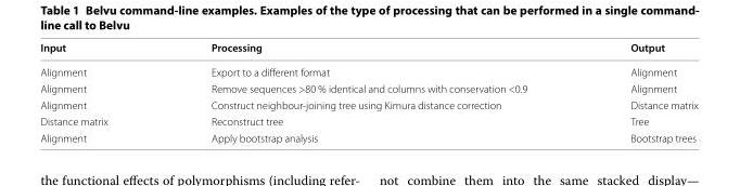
<table><thead><tr><td>Input</td><td>Processing</td><td>Output</td></tr></thead><tbody><tr><td>Alignment</td><td>Export to a different format</td><td>Alignment</td></tr><tr><td>Alignment</td><td>Remove sequences &gt;80 % identical and columns with conservation &lt;0.9</td><td>Alignment</td></tr><tr><td>Alignment</td><td>Construct neighbour-joining tree using Kimura distance correction</td><td>Distance matrix</td></tr><tr><td>Distance matrix</td><td>Reconstruct tree</td><td>Tree</td></tr><tr><td>Alignment</td><td>Apply bootstrap analysis</td><td>Bootstrap trees</td></tr></tbody></table>